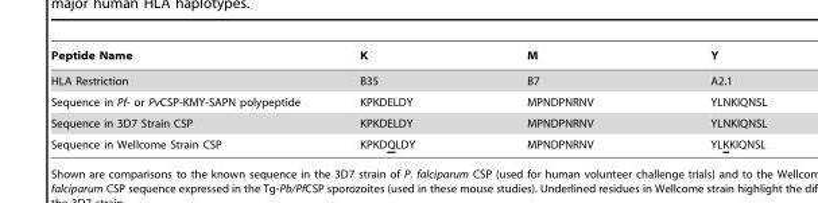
<table><thead><tr><td>Peptide Name</td><td>K</td><td>M</td><td>Y</td></tr></thead><tbody><tr><td>HLA Restriction</td><td>B35</td><td>B7</td><td>A2.1</td></tr><tr><td>Sequence in Pf- or PvCSP-KMY-SAPN polypeptide</td><td>KPKDELDY</td><td>MPNDPNRNV</td><td>YLNKIQNSL</td></tr><tr><td>Sequence in 3D7 Strain CSP</td><td>KPKDELDY</td><td>MPNDPNRNV</td><td>YLNKIQNSL</td></tr><tr><td>Sequence in Wellcome Strain CSP</td><td>KPKDQLDY</td><td>MPNDPNRNV</td><td>YLKKIQNSL</td></tr></tbody></table>